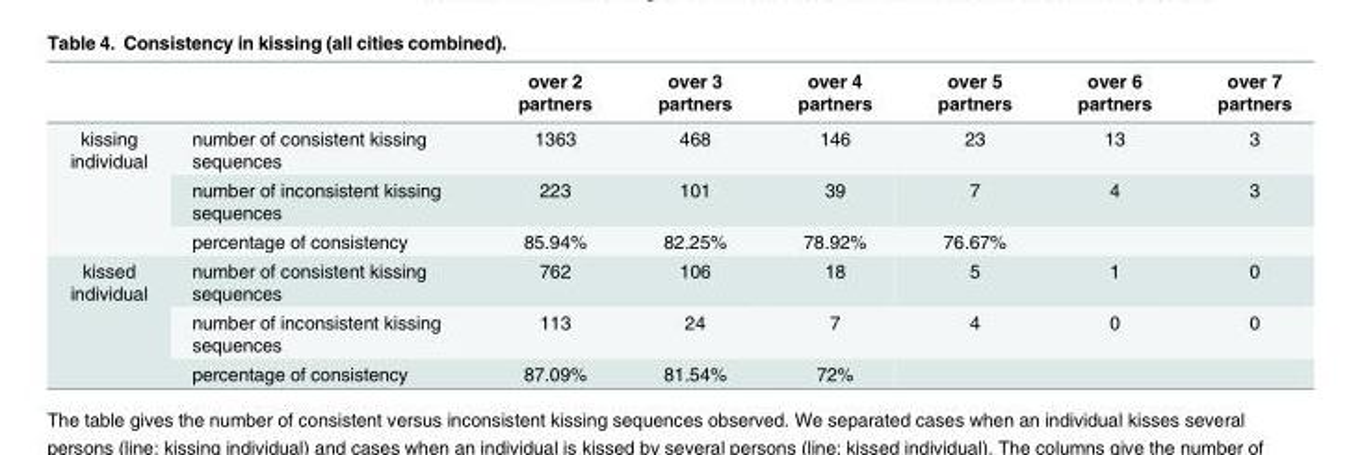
<table><thead><tr><td></td><td></td><td>over 2 partners</td><td>over 3 partners</td><td>over 4 partners</td><td>over 5 partners</td><td>over 6 partners</td><td>over 7 partners</td></tr></thead><tbody><tr><td rowspan="3">kissing individual</td><td>number of consistent kissing sequences</td><td>1363</td><td>468</td><td>146</td><td>23</td><td>13</td><td>3</td></tr><tr><td>number of inconsistent kissing sequences</td><td>223</td><td>101</td><td>39</td><td>7</td><td>4</td><td>3</td></tr><tr><td>percentage of consistency</td><td>85.94%</td><td>82.25%</td><td>78.92%</td><td>76.67%</td><td></td><td></td></tr><tr><td rowspan="3">kissed individual</td><td>number of consistent kissing sequences</td><td>762</td><td>106</td><td>18</td><td>5</td><td>1</td><td>0</td></tr><tr><td>number of inconsistent kissing sequences</td><td>113</td><td>24</td><td>7</td><td>4</td><td>0</td><td>0</td></tr><tr><td>percentage of consistency</td><td>87.09%</td><td>81.54%</td><td>72%</td><td></td><td></td><td></td></tr></tbody></table>